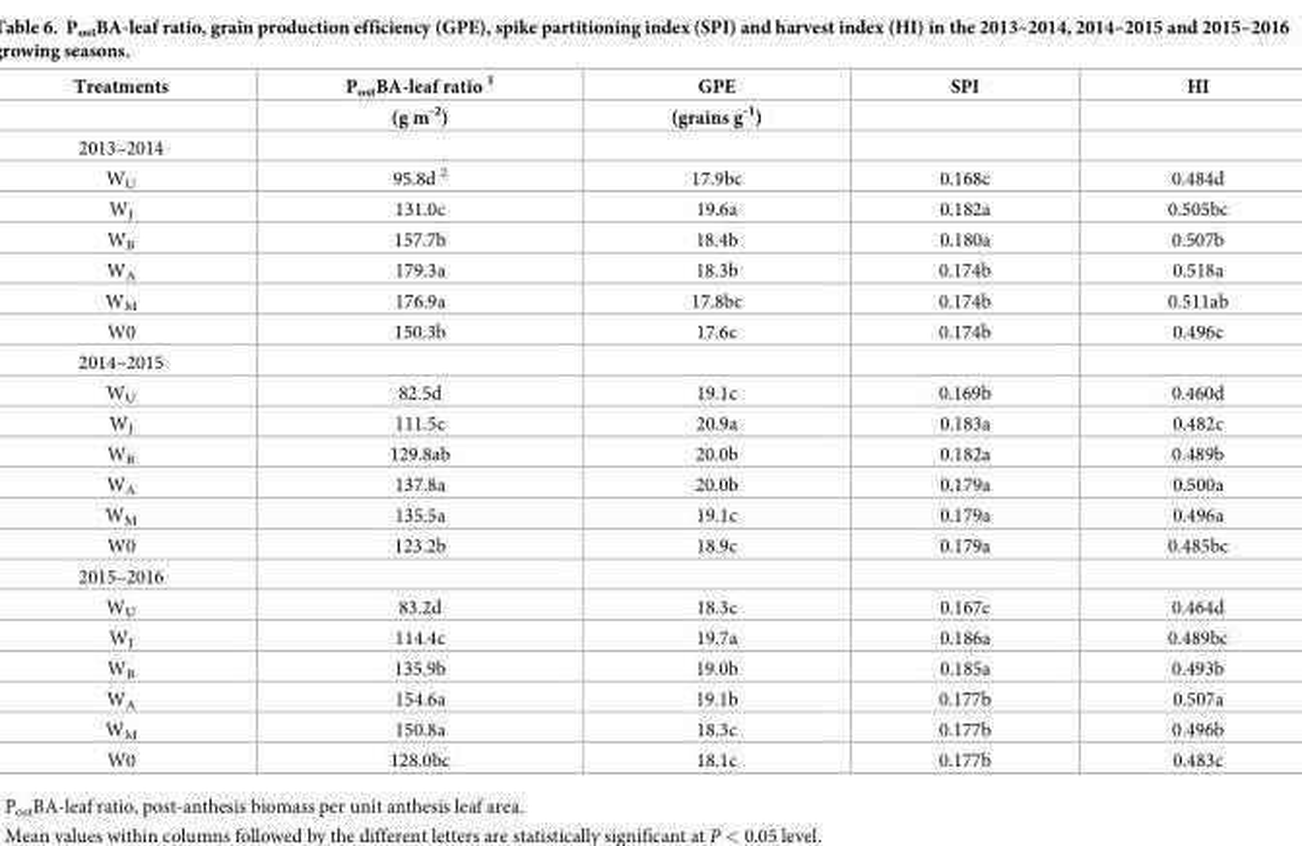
<table><thead><tr><td rowspan="2">Treatments</td><td rowspan="2">P<sub>ost</sub>BA-leaf ratio <sup>1</sup> (g m<sup>-2</sup>)</td><td rowspan="2">GPE (grains g<sup>-1</sup>)</td><td rowspan="2">SPI</td><td rowspan="2">HI</td></tr><tr></tr></thead><tbody><tr><td colspan="5">2013–2014</td></tr><tr><td>W<sub>U</sub></td><td>95.8d <sup>2</sup></td><td>17.9bc</td><td>0.168c</td><td>0.484d</td></tr><tr><td>W<sub>J</sub></td><td>131.0c</td><td>19.6a</td><td>0.182a</td><td>0.505bc</td></tr><tr><td>W<sub>B</sub></td><td>157.7b</td><td>18.4b</td><td>0.180a</td><td>0.507b</td></tr><tr><td>W<sub>A</sub></td><td>179.3a</td><td>18.3b</td><td>0.174b</td><td>0.518a</td></tr><tr><td>W<sub>M</sub></td><td>176.9a</td><td>17.8bc</td><td>0.174b</td><td>0.511ab</td></tr><tr><td>W0</td><td>150.3b</td><td>17.6c</td><td>0.174b</td><td>0.496c</td></tr><tr><td colspan="5">2014–2015</td></tr><tr><td>W<sub>U</sub></td><td>82.5d</td><td>19.1c</td><td>0.169b</td><td>0.460d</td></tr><tr><td>W<sub>J</sub></td><td>111.5c</td><td>20.9a</td><td>0.183a</td><td>0.482c</td></tr><tr><td>W<sub>B</sub></td><td>129.8ab</td><td>20.0b</td><td>0.182a</td><td>0.489b</td></tr><tr><td>W<sub>A</sub></td><td>137.8a</td><td>20.0b</td><td>0.179a</td><td>0.500a</td></tr><tr><td>W<sub>M</sub></td><td>135.5a</td><td>19.1c</td><td>0.179a</td><td>0.496a</td></tr><tr><td>W0</td><td>123.2b</td><td>18.9c</td><td>0.179a</td><td>0.485bc</td></tr><tr><td colspan="5">2015–2016</td></tr><tr><td>W<sub>U</sub></td><td>83.2d</td><td>18.3c</td><td>0.167c</td><td>0.464d</td></tr><tr><td>W<sub>J</sub></td><td>114.4c</td><td>19.7a</td><td>0.186a</td><td>0.489bc</td></tr><tr><td>W<sub>B</sub></td><td>135.9b</td><td>19.0b</td><td>0.185a</td><td>0.493b</td></tr><tr><td>W<sub>A</sub></td><td>154.6a</td><td>19.1b</td><td>0.177b</td><td>0.507a</td></tr><tr><td>W<sub>M</sub></td><td>150.8a</td><td>18.3c</td><td>0.177b</td><td>0.496b</td></tr><tr><td>W0</td><td>128.0bc</td><td>18.1c</td><td>0.177b</td><td>0.483c</td></tr></tbody></table>